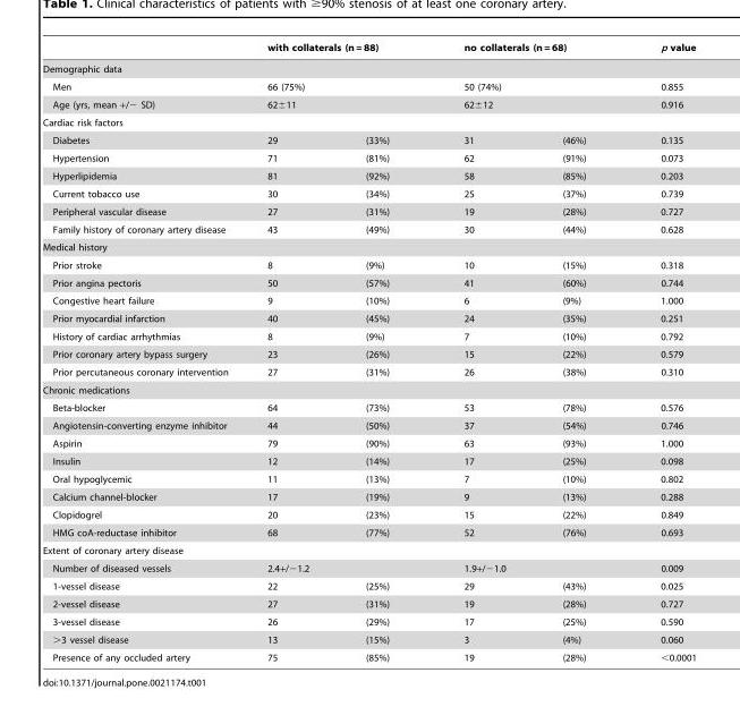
<table><thead><tr><td></td><td colspan="2">with collaterals (n = 88)</td><td colspan="2">no collaterals (n = 68)</td><td>p value</td></tr></thead><tbody><tr><td colspan="6">Demographic data</td></tr><tr><td>Men</td><td colspan="2">66 (75%)</td><td colspan="2">50 (74%)</td><td>0.855</td></tr><tr><td>Age (yrs, mean +/− SD)</td><td colspan="2">62±11</td><td colspan="2">62±12</td><td>0.916</td></tr><tr><td colspan="6">Cardiac risk factors</td></tr><tr><td>Diabetes</td><td>29</td><td>(33%)</td><td>31</td><td>(46%)</td><td>0.135</td></tr><tr><td>Hypertension</td><td>71</td><td>(81%)</td><td>62</td><td>(91%)</td><td>0.073</td></tr><tr><td>Hyperlipidemia</td><td>81</td><td>(92%)</td><td>58</td><td>(85%)</td><td>0.203</td></tr><tr><td>Current tobacco use</td><td>30</td><td>(34%)</td><td>25</td><td>(37%)</td><td>0.739</td></tr><tr><td>Peripheral vascular disease</td><td>27</td><td>(31%)</td><td>19</td><td>(28%)</td><td>0.727</td></tr><tr><td>Family history of coronary artery disease</td><td>43</td><td>(49%)</td><td>30</td><td>(44%)</td><td>0.628</td></tr><tr><td colspan="6">Medical history</td></tr><tr><td>Prior stroke</td><td>8</td><td>(9%)</td><td>10</td><td>(15%)</td><td>0.318</td></tr><tr><td>Prior angina pectoris</td><td>50</td><td>(57%)</td><td>41</td><td>(60%)</td><td>0.744</td></tr><tr><td>Congestive heart failure</td><td>9</td><td>(10%)</td><td>6</td><td>(9%)</td><td>1.000</td></tr><tr><td>Prior myocardial infarction</td><td>40</td><td>(45%)</td><td>24</td><td>(35%)</td><td>0.251</td></tr><tr><td>History of cardiac arrhythmias</td><td>8</td><td>(9%)</td><td>7</td><td>(10%)</td><td>0.792</td></tr><tr><td>Prior coronary artery bypass surgery</td><td>23</td><td>(26%)</td><td>15</td><td>(22%)</td><td>0.579</td></tr><tr><td>Prior percutaneous coronary intervention</td><td>27</td><td>(31%)</td><td>26</td><td>(38%)</td><td>0.310</td></tr><tr><td colspan="6">Chronic medications</td></tr><tr><td>Beta-blocker</td><td>64</td><td>(73%)</td><td>53</td><td>(78%)</td><td>0.576</td></tr><tr><td>Angiotensin-converting enzyme inhibitor</td><td>44</td><td>(50%)</td><td>37</td><td>(54%)</td><td>0.746</td></tr><tr><td>Aspirin</td><td>79</td><td>(90%)</td><td>63</td><td>(93%)</td><td>1.000</td></tr><tr><td>Insulin</td><td>12</td><td>(14%)</td><td>17</td><td>(25%)</td><td>0.098</td></tr><tr><td>Oral hypoglycemic</td><td>11</td><td>(13%)</td><td>7</td><td>(10%)</td><td>0.802</td></tr><tr><td>Calcium channel-blocker</td><td>17</td><td>(19%)</td><td>9</td><td>(13%)</td><td>0.288</td></tr><tr><td>Clopidogrel</td><td>20</td><td>(23%)</td><td>15</td><td>(22%)</td><td>0.849</td></tr><tr><td>HMG coA-reductase inhibitor</td><td>68</td><td>(77%)</td><td>52</td><td>(76%)</td><td>0.693</td></tr><tr><td colspan="6">Extent of coronary artery disease</td></tr><tr><td>Number of diseased vessels</td><td colspan="2">2.4+/−1.2</td><td colspan="2">1.9+/−1.0</td><td>0.009</td></tr><tr><td>1-vessel disease</td><td>22</td><td>(25%)</td><td>29</td><td>(43%)</td><td>0.025</td></tr><tr><td>2-vessel disease</td><td>27</td><td>(31%)</td><td>19</td><td>(28%)</td><td>0.727</td></tr><tr><td>3-vessel disease</td><td>26</td><td>(29%)</td><td>17</td><td>(25%)</td><td>0.590</td></tr><tr><td>&gt;3 vessel disease</td><td>13</td><td>(15%)</td><td>3</td><td>(4%)</td><td>0.060</td></tr><tr><td>Presence of any occluded artery</td><td>75</td><td>(85%)</td><td>19</td><td>(28%)</td><td>&lt;0.0001</td></tr></tbody></table>